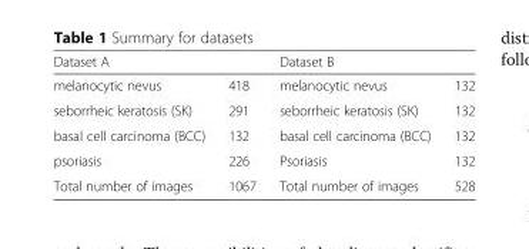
<table><thead><tr><td colspan="2">Dataset A</td><td colspan="2">Dataset B</td></tr><tr><td>melanocytic nevus</td><td>418</td><td>melanocytic nevus</td><td>132</td></tr></thead><tbody><tr><td>seborrheic keratosis (SK)</td><td>291</td><td>seborrheic keratosis (SK)</td><td>132</td></tr><tr><td>basal cell carcinoma (BCC)</td><td>132</td><td>basal cell carcinoma (BCC)</td><td>132</td></tr><tr><td>psoriasis</td><td>226</td><td>Psoriasis</td><td>132</td></tr><tr><td>Total number of images</td><td>1067</td><td>Total number of images</td><td>528</td></tr></tbody></table>